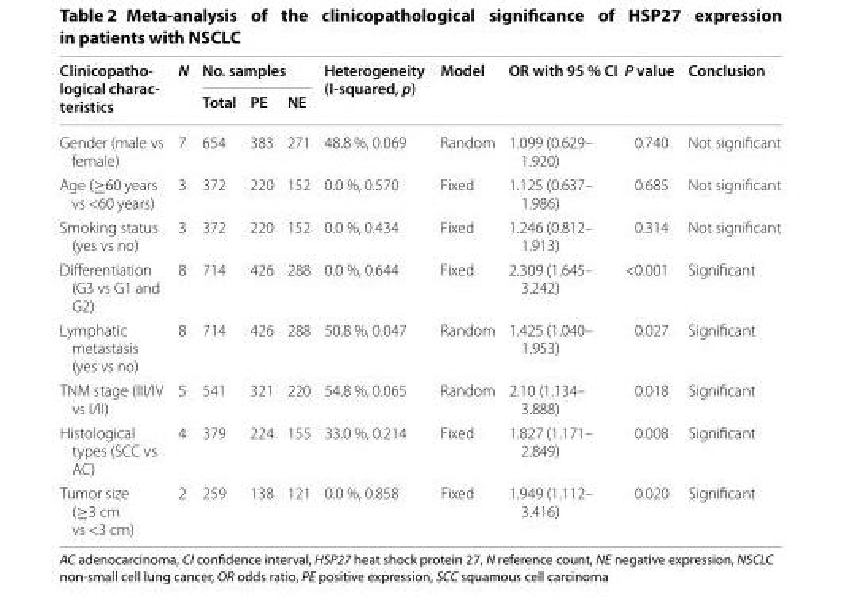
<table><thead><tr><td rowspan="2">Clinicopatho- logical charac- teristics</td><td rowspan="2">N</td><td colspan="3">No. samples</td><td rowspan="2">Heterogeneity (I-squared, p)</td><td rowspan="2">Model</td><td rowspan="2">OR with 95 % CI</td><td rowspan="2">P value</td><td rowspan="2">Conclusion</td></tr><tr><td>Total</td><td>PE</td><td>NE</td></tr></thead><tbody><tr><td>Gender (male vs female)</td><td>7</td><td>654</td><td>383</td><td>271</td><td>48.8 %, 0.069</td><td>Random</td><td>1.099 (0.629– 1.920)</td><td>0.740</td><td>Not significant</td></tr><tr><td>Age (≥60 years vs &lt;60 years)</td><td>3</td><td>372</td><td>220</td><td>152</td><td>0.0 %, 0.570</td><td>Fixed</td><td>1.125 (0.637– 1.986)</td><td>0.685</td><td>Not significant</td></tr><tr><td>Smoking status (yes vs no)</td><td>3</td><td>372</td><td>220</td><td>152</td><td>0.0 %, 0.434</td><td>Fixed</td><td>1.246 (0.812– 1.913)</td><td>0.314</td><td>Not significant</td></tr><tr><td>Differentiation (G3 vs G1 and G2)</td><td>8</td><td>714</td><td>426</td><td>288</td><td>0.0 %, 0.644</td><td>Fixed</td><td>2.309 (1.645– 3.242)</td><td>&lt;0.001</td><td>Significant</td></tr><tr><td>Lymphatic metastasis (yes vs no)</td><td>8</td><td>714</td><td>426</td><td>288</td><td>50.8 %, 0.047</td><td>Random</td><td>1.425 (1.040– 1.953)</td><td>0.027</td><td>Significant</td></tr><tr><td>TNM stage (III/IV vs I/II)</td><td>5</td><td>541</td><td>321</td><td>220</td><td>54.8 %, 0.065</td><td>Random</td><td>2.10 (1.134– 3.888)</td><td>0.018</td><td>Significant</td></tr><tr><td>Histological types (SCC vs AC)</td><td>4</td><td>379</td><td>224</td><td>155</td><td>33.0 %, 0.214</td><td>Fixed</td><td>1.827 (1.171– 2.849)</td><td>0.008</td><td>Significant</td></tr><tr><td>Tumor size (≥3 cm vs &lt;3 cm)</td><td>2</td><td>259</td><td>138</td><td>121</td><td>0.0 %, 0.858</td><td>Fixed</td><td>1.949 (1.112– 3.416)</td><td>0.020</td><td>Significant</td></tr></tbody></table>